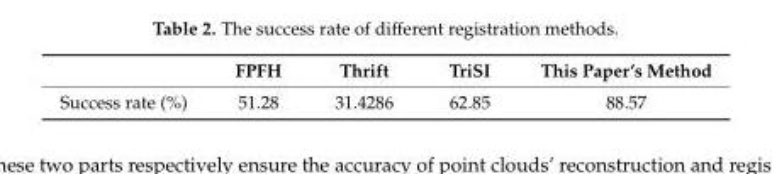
<table><thead><tr><td></td><td>FPFH</td><td>Thrift</td><td>TriSI</td><td>This Paper’s Method</td></tr></thead><tbody><tr><td>Success rate (%)</td><td>51.28</td><td>31.4286</td><td>62.85</td><td>88.57</td></tr></tbody></table>